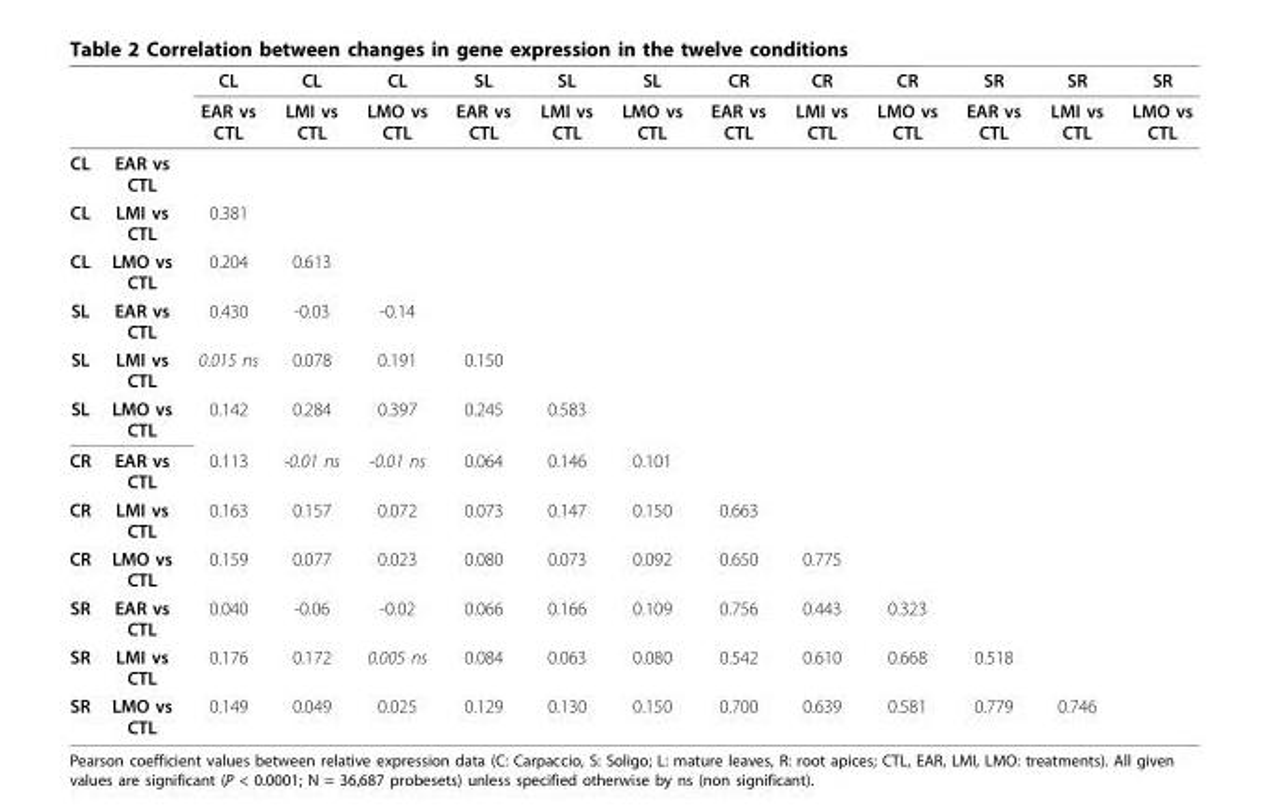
<table><thead><tr><td rowspan="2"></td><td rowspan="2"></td><td rowspan="2">CL EAR vs CTL</td><td rowspan="2">CL LMI vs CTL</td><td rowspan="2">CL LMO vs CTL</td><td rowspan="2">SL EAR vs CTL</td><td rowspan="2">SL LMI vs CTL</td><td rowspan="2">SL LMO vs CTL</td><td rowspan="2">CR EAR vs CTL</td><td rowspan="2">CR LMI vs CTL</td><td rowspan="2">CR LMO vs CTL</td><td rowspan="2">SR EAR vs CTL</td><td rowspan="2">SR LMI vs CTL</td><td rowspan="2">SR LMO vs CTL</td></tr><tr></tr></thead><tbody><tr><td>CL</td><td>EAR vs CTL</td><td></td><td></td><td></td><td></td><td></td><td></td><td></td><td></td><td></td><td></td><td></td><td></td></tr><tr><td>CL</td><td>LMI vs CTL</td><td>0.381</td><td></td><td></td><td></td><td></td><td></td><td></td><td></td><td></td><td></td><td></td><td></td></tr><tr><td>CL</td><td>LMO vs CTL</td><td>0.204</td><td>0.613</td><td></td><td></td><td></td><td></td><td></td><td></td><td></td><td></td><td></td><td></td></tr><tr><td>SL</td><td>EAR vs CTL</td><td>0.430</td><td>-0.03</td><td>-0.14</td><td></td><td></td><td></td><td></td><td></td><td></td><td></td><td></td><td></td></tr><tr><td>SL</td><td>LMI vs CTL</td><td>0.015 ns</td><td>0.078</td><td>0.191</td><td>0.150</td><td></td><td></td><td></td><td></td><td></td><td></td><td></td><td></td></tr><tr><td>SL</td><td>LMO vs CTL</td><td>0.142</td><td>0.284</td><td>0.397</td><td>0.245</td><td>0.583</td><td></td><td></td><td></td><td></td><td></td><td></td><td></td></tr><tr><td>CR</td><td>EAR vs CTL</td><td>0.113</td><td>-0.01 ns</td><td>-0.01 ns</td><td>0.064</td><td>0.146</td><td>0.101</td><td></td><td></td><td></td><td></td><td></td><td></td></tr><tr><td>CR</td><td>LMI vs CTL</td><td>0.163</td><td>0.157</td><td>0.072</td><td>0.073</td><td>0.147</td><td>0.150</td><td>0.663</td><td></td><td></td><td></td><td></td><td></td></tr><tr><td>CR</td><td>LMO vs CTL</td><td>0.159</td><td>0.077</td><td>0.023</td><td>0.080</td><td>0.073</td><td>0.092</td><td>0.650</td><td>0.775</td><td></td><td></td><td></td><td></td></tr><tr><td>SR</td><td>EAR vs CTL</td><td>0.040</td><td>-0.06</td><td>-0.02</td><td>0.066</td><td>0.166</td><td>0.109</td><td>0.756</td><td>0.443</td><td>0.323</td><td></td><td></td><td></td></tr><tr><td>SR</td><td>LMI vs CTL</td><td>0.176</td><td>0.172</td><td>0.005 ns</td><td>0.084</td><td>0.063</td><td>0.080</td><td>0.542</td><td>0.610</td><td>0.668</td><td>0.518</td><td></td><td></td></tr><tr><td>SR</td><td>LMO vs CTL</td><td>0.149</td><td>0.049</td><td>0.025</td><td>0.129</td><td>0.130</td><td>0.150</td><td>0.700</td><td>0.639</td><td>0.581</td><td>0.779</td><td>0.746</td><td></td></tr></tbody></table>